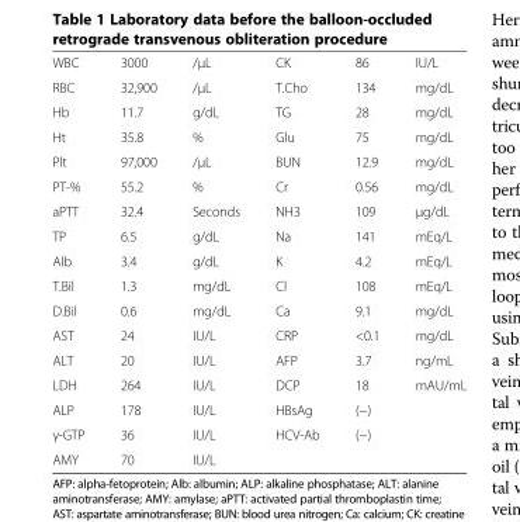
<table><tbody><tr><td>WBC</td><td>3000</td><td>/μL</td><td>CK</td><td>86</td><td>IU/L</td></tr><tr><td>RBC</td><td>32,900</td><td>/μL</td><td>T.Cho</td><td>134</td><td>mg/dL</td></tr><tr><td>Hb</td><td>11.7</td><td>g/dL</td><td>TG</td><td>28</td><td>mg/dL</td></tr><tr><td>Ht</td><td>35.8</td><td>%</td><td>Glu</td><td>75</td><td>mg/dL</td></tr><tr><td>Plt</td><td>97,000</td><td>/μL</td><td>BUN</td><td>12.9</td><td>mg/dL</td></tr><tr><td>PT-%</td><td>55.2</td><td>%</td><td>Cr</td><td>0.56</td><td>mg/dL</td></tr><tr><td>aPTT</td><td>32.4</td><td>Seconds</td><td>NH3</td><td>109</td><td>μg/dL</td></tr><tr><td>TP</td><td>6.5</td><td>g/dL</td><td>Na</td><td>141</td><td>mEq/L</td></tr><tr><td>Alb</td><td>3.4</td><td>g/dL</td><td>K</td><td>4.2</td><td>mEq/L</td></tr><tr><td>T.Bil</td><td>1.3</td><td>mg/dL</td><td>Cl</td><td>108</td><td>mEq/L</td></tr><tr><td>D.Bil</td><td>0.6</td><td>mg/dL</td><td>Ca</td><td>9.1</td><td>mg/dL</td></tr><tr><td>AST</td><td>24</td><td>IU/L</td><td>CRP</td><td>&lt;0.1</td><td>mg/dL</td></tr><tr><td>ALT</td><td>20</td><td>IU/L</td><td>AFP</td><td>3.7</td><td>ng/mL</td></tr><tr><td>LDH</td><td>264</td><td>IU/L</td><td>DCP</td><td>18</td><td>mAU/mL</td></tr><tr><td>ALP</td><td>178</td><td>IU/L</td><td>HBsAg</td><td colspan="2">(−)</td></tr><tr><td>γ-GTP</td><td>36</td><td>IU/L</td><td>HCV-Ab</td><td colspan="2">(−)</td></tr><tr><td>AMY</td><td>70</td><td>IU/L</td><td></td><td></td><td></td></tr></tbody></table>